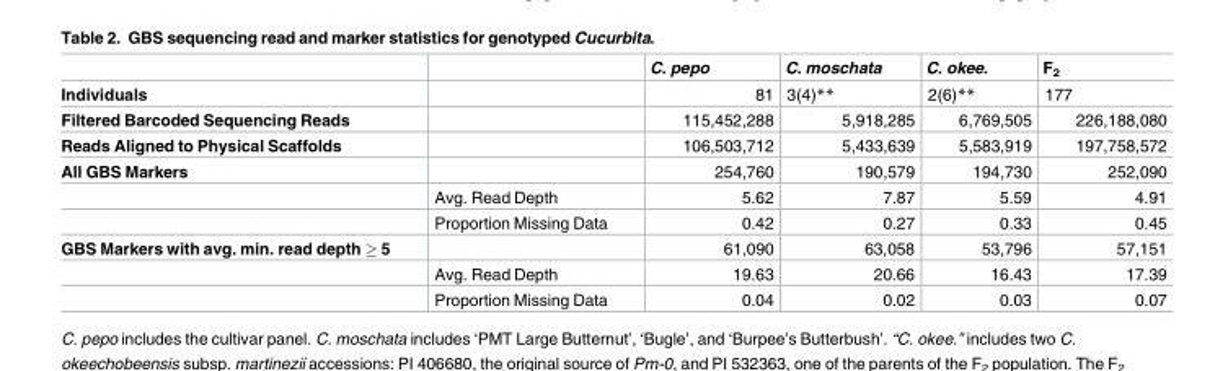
<table><thead><tr><td></td><td></td><td>C. pepo</td><td>C. moschata</td><td>C. okee.</td><td>F<sub>2</sub></td></tr></thead><tbody><tr><td>Individuals</td><td></td><td>81</td><td>3(4)**</td><td>2(6)**</td><td>177</td></tr><tr><td>Filtered Barcoded Sequencing Reads</td><td></td><td>115,452,288</td><td>5,918,285</td><td>6,769,505</td><td>226,188,080</td></tr><tr><td>Reads Aligned to Physical Scaffolds</td><td></td><td>106,503,712</td><td>5,433,639</td><td>5,583,919</td><td>197,758,572</td></tr><tr><td rowspan="3">All GBS Markers</td><td></td><td>254,760</td><td>190,579</td><td>194,730</td><td>252,090</td></tr><tr><td>Avg. Read Depth</td><td>5.62</td><td>7.87</td><td>5.59</td><td>4.91</td></tr><tr><td>Proportion Missing Data</td><td>0.42</td><td>0.27</td><td>0.33</td><td>0.45</td></tr><tr><td rowspan="3">GBS Markers with avg. min. read depth ≥ 5</td><td></td><td>61,090</td><td>63,058</td><td>53,796</td><td>57,151</td></tr><tr><td>Avg. Read Depth</td><td>19.63</td><td>20.66</td><td>16.43</td><td>17.39</td></tr><tr><td>Proportion Missing Data</td><td>0.04</td><td>0.02</td><td>0.03</td><td>0.07</td></tr></tbody></table>